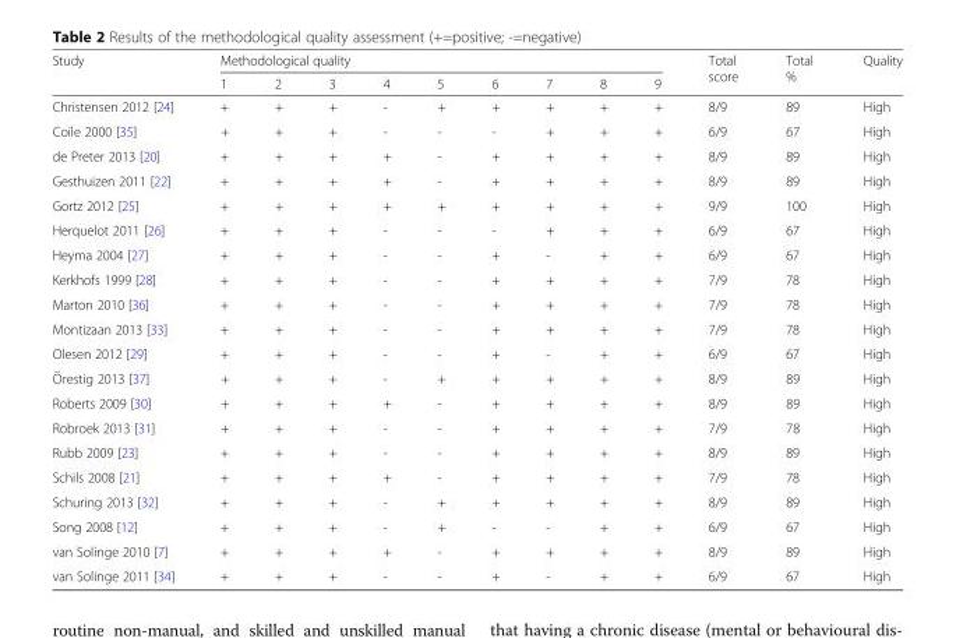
<table><thead><tr><td rowspan="2">Study</td><td colspan="9">Methodological quality</td><td rowspan="2">Total score</td><td rowspan="2">Total %</td><td rowspan="2">Quality</td></tr><tr><td>1</td><td>2</td><td>3</td><td>4</td><td>5</td><td>6</td><td>7</td><td>8</td><td>9</td></tr></thead><tbody><tr><td>Christensen 2012 [24]</td><td>+</td><td>+</td><td>+</td><td>-</td><td>+</td><td>+</td><td>+</td><td>+</td><td>+</td><td>8/9</td><td>89</td><td>High</td></tr><tr><td>Coile 2000 [35]</td><td>+</td><td>+</td><td>+</td><td>-</td><td>-</td><td>-</td><td>+</td><td>+</td><td>+</td><td>6/9</td><td>67</td><td>High</td></tr><tr><td>de Preter 2013 [20]</td><td>+</td><td>+</td><td>+</td><td>+</td><td>-</td><td>+</td><td>+</td><td>+</td><td>+</td><td>8/9</td><td>89</td><td>High</td></tr><tr><td>Gesthuizen 2011 [22]</td><td>+</td><td>+</td><td>+</td><td>+</td><td>-</td><td>+</td><td>+</td><td>+</td><td>+</td><td>8/9</td><td>89</td><td>High</td></tr><tr><td>Gortz 2012 [25]</td><td>+</td><td>+</td><td>+</td><td>+</td><td>+</td><td>+</td><td>+</td><td>+</td><td>+</td><td>9/9</td><td>100</td><td>High</td></tr><tr><td>Herquelot 2011 [26]</td><td>+</td><td>+</td><td>+</td><td>-</td><td>-</td><td>-</td><td>+</td><td>+</td><td>+</td><td>6/9</td><td>67</td><td>High</td></tr><tr><td>Heyma 2004 [27]</td><td>+</td><td>+</td><td>+</td><td>-</td><td>-</td><td>+</td><td>-</td><td>+</td><td>+</td><td>6/9</td><td>67</td><td>High</td></tr><tr><td>Kerkhofs 1999 [28]</td><td>+</td><td>+</td><td>+</td><td>-</td><td>-</td><td>+</td><td>+</td><td>+</td><td>+</td><td>7/9</td><td>78</td><td>High</td></tr><tr><td>Marton 2010 [36]</td><td>+</td><td>+</td><td>+</td><td>-</td><td>-</td><td>+</td><td>+</td><td>+</td><td>+</td><td>7/9</td><td>78</td><td>High</td></tr><tr><td>Montizaan 2013 [33]</td><td>+</td><td>+</td><td>+</td><td>-</td><td>-</td><td>+</td><td>+</td><td>+</td><td>+</td><td>7/9</td><td>78</td><td>High</td></tr><tr><td>Olesen 2012 [29]</td><td>+</td><td>+</td><td>+</td><td>-</td><td>-</td><td>+</td><td>-</td><td>+</td><td>+</td><td>6/9</td><td>67</td><td>High</td></tr><tr><td>Ӧrestig 2013 [37]</td><td>+</td><td>+</td><td>+</td><td>-</td><td>+</td><td>+</td><td>+</td><td>+</td><td>+</td><td>8/9</td><td>89</td><td>High</td></tr><tr><td>Roberts 2009 [30]</td><td>+</td><td>+</td><td>+</td><td>+</td><td>-</td><td>+</td><td>+</td><td>+</td><td>+</td><td>8/9</td><td>89</td><td>High</td></tr><tr><td>Robroek 2013 [31]</td><td>+</td><td>+</td><td>+</td><td>-</td><td>-</td><td>+</td><td>+</td><td>+</td><td>+</td><td>7/9</td><td>78</td><td>High</td></tr><tr><td>Rubb 2009 [23]</td><td>+</td><td>+</td><td>+</td><td>-</td><td>-</td><td>+</td><td>+</td><td>+</td><td>+</td><td>8/9</td><td>89</td><td>High</td></tr><tr><td>Schils 2008 [21]</td><td>+</td><td>+</td><td>+</td><td>+</td><td>-</td><td>+</td><td>+</td><td>+</td><td>+</td><td>7/9</td><td>78</td><td>High</td></tr><tr><td>Schuring 2013 [32]</td><td>+</td><td>+</td><td>+</td><td>-</td><td>+</td><td>+</td><td>+</td><td>+</td><td>+</td><td>8/9</td><td>89</td><td>High</td></tr><tr><td>Song 2008 [12]</td><td>+</td><td>+</td><td>+</td><td>-</td><td>+</td><td>-</td><td>-</td><td>+</td><td>+</td><td>6/9</td><td>67</td><td>High</td></tr><tr><td>van Solinge 2010 [7]</td><td>+</td><td>+</td><td>+</td><td>+</td><td>-</td><td>+</td><td>+</td><td>+</td><td>+</td><td>8/9</td><td>89</td><td>High</td></tr><tr><td>van Solinge 2011 [34]</td><td>+</td><td>+</td><td>+</td><td>-</td><td>-</td><td>+</td><td>-</td><td>+</td><td>+</td><td>6/9</td><td>67</td><td>High</td></tr></tbody></table>